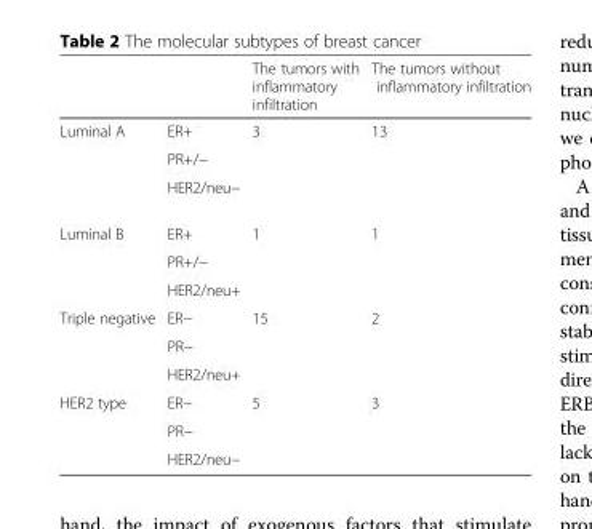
<table><thead><tr><td></td><td></td><td>The tumors with inflammatory infiltration</td><td>The tumors without inflammatory infiltration</td></tr></thead><tbody><tr><td rowspan="3">Luminal A</td><td>ER+</td><td rowspan="3">3</td><td rowspan="3">13</td></tr><tr><td>PR+/−</td></tr><tr><td>HER2/neu−</td></tr><tr><td rowspan="3">Luminal B</td><td>ER+</td><td rowspan="3">1</td><td rowspan="3">1</td></tr><tr><td>PR+/−</td></tr><tr><td>HER2/neu+</td></tr><tr><td rowspan="3">Triple negative</td><td>ER−</td><td rowspan="3">15</td><td rowspan="3">2</td></tr><tr><td>PR−</td></tr><tr><td>HER2/neu+</td></tr><tr><td rowspan="3">HER2 type</td><td>ER−</td><td rowspan="3">5</td><td rowspan="3">3</td></tr><tr><td>PR−</td></tr><tr><td>HER2/neu−</td></tr></tbody></table>